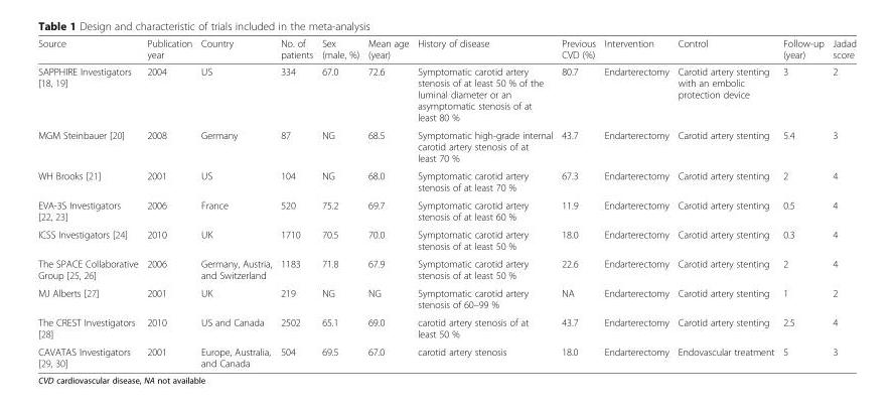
<table><thead><tr><td>Source</td><td>Publication year</td><td>Country</td><td>No. of patients</td><td>Sex (male, %)</td><td>Mean age (year)</td><td>History of disease</td><td>Previous CVD (%)</td><td>Intervention</td><td>Control</td><td>Follow-up (year)</td><td>Jadad score</td></tr></thead><tbody><tr><td>SAPPHIRE Investigators [18, 19]</td><td>2004</td><td>US</td><td>334</td><td>67.0</td><td>72.6</td><td>Symptomatic carotid artery stenosis of at least 50 % of the luminal diameter or an asymptomatic stenosis of at least 80 %</td><td>80.7</td><td>Endarterectomy</td><td>Carotid artery stenting with an embolic protection device</td><td>3</td><td>2</td></tr><tr><td>MGM Steinbauer [20]</td><td>2008</td><td>Germany</td><td>87</td><td>NG</td><td>68.5</td><td>Symptomatic high-grade internal carotid artery stenosis of at least 70 %</td><td>43.7</td><td>Endarterectomy</td><td>Carotid artery stenting</td><td>5.4</td><td>3</td></tr><tr><td>WH Brooks [21]</td><td>2001</td><td>US</td><td>104</td><td>NG</td><td>68.0</td><td>Symptomatic carotid artery stenosis of at least 70 %</td><td>67.3</td><td>Endarterectomy</td><td>Carotid artery stenting</td><td>2</td><td>4</td></tr><tr><td>EVA-3S Investigators [22, 23]</td><td>2006</td><td>France</td><td>520</td><td>75.2</td><td>69.7</td><td>Symptomatic carotid artery stenosis of at least 60 %</td><td>11.9</td><td>Endarterectomy</td><td>Carotid artery stenting</td><td>0.5</td><td>4</td></tr><tr><td>ICSS Investigators [24]</td><td>2010</td><td>UK</td><td>1710</td><td>70.5</td><td>70.0</td><td>Symptomatic carotid artery stenosis of at least 50 %</td><td>18.0</td><td>Endarterectomy</td><td>Carotid artery stenting</td><td>0.3</td><td>4</td></tr><tr><td>The SPACE Collaborative Group [25, 26]</td><td>2006</td><td>Germany, Austria, and Switzerland</td><td>1183</td><td>71.8</td><td>67.9</td><td>Symptomatic carotid artery stenosis of at least 50 %</td><td>22.6</td><td>Endarterectomy</td><td>Carotid artery stenting</td><td>2</td><td>4</td></tr><tr><td>MJ Alberts [27]</td><td>2001</td><td>UK</td><td>219</td><td>NG</td><td>NG</td><td>Symptomatic carotid artery stenosis of 60–99 %</td><td>NA</td><td>Endarterectomy</td><td>Carotid artery stenting</td><td>1</td><td>2</td></tr><tr><td>The CREST Investigators [28]</td><td>2010</td><td>US and Canada</td><td>2502</td><td>65.1</td><td>69.0</td><td>carotid artery stenosis of at least 50 %</td><td>43.7</td><td>Endarterectomy</td><td>Carotid artery stenting</td><td>2.5</td><td>4</td></tr><tr><td>CAVATAS Investigators [29, 30]</td><td>2001</td><td>Europe, Australia, and Canada</td><td>504</td><td>69.5</td><td>67.0</td><td>carotid artery stenosis</td><td>18.0</td><td>Endarterectomy</td><td>Endovascular treatment</td><td>5</td><td>3</td></tr></tbody></table>